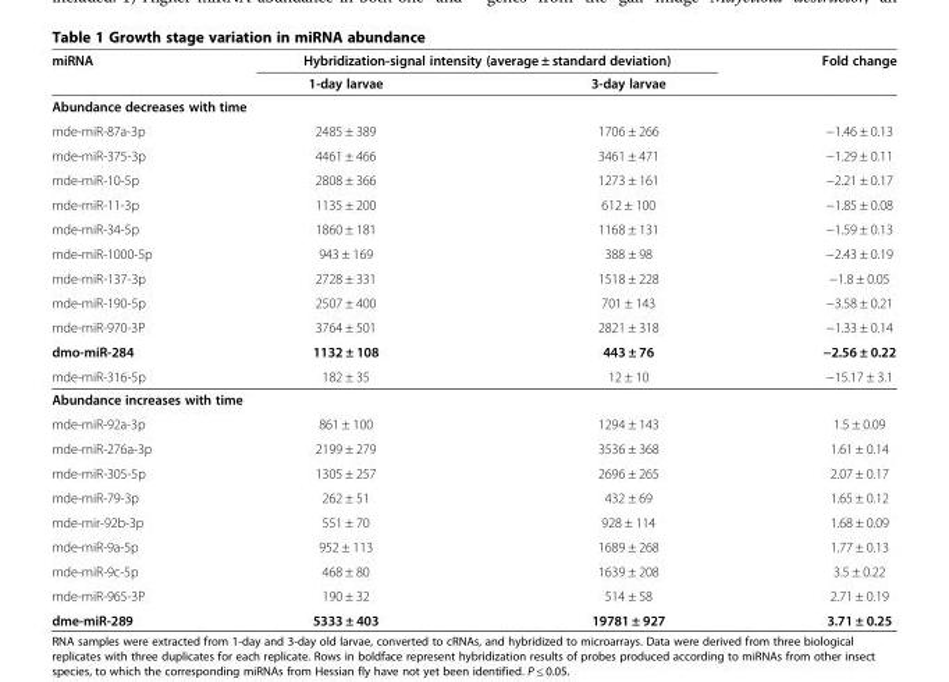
<table><thead><tr><td rowspan="2">miRNA</td><td colspan="2">Hybridization-signal intensity (average ± standard deviation)</td><td rowspan="2">Fold change</td></tr><tr><td>1-day larvae</td><td>3-day larvae</td></tr></thead><tbody><tr><td colspan="4">Abundance decreases with time</td></tr><tr><td>mde-miR-87a-3p</td><td>2485 ± 389</td><td>1706 ± 266</td><td>−1.46 ± 0.13</td></tr><tr><td>mde-miR-375-3p</td><td>4461 ± 466</td><td>3461 ± 471</td><td>−1.29 ± 0.11</td></tr><tr><td>mde-miR-10-5p</td><td>2808 ± 366</td><td>1273 ± 161</td><td>−2.21 ± 0.17</td></tr><tr><td>mde-miR-11-3p</td><td>1135 ± 200</td><td>612 ± 100</td><td>−1.85 ± 0.08</td></tr><tr><td>mde-miR-34-5p</td><td>1860 ± 181</td><td>1168 ± 131</td><td>−1.59 ± 0.13</td></tr><tr><td>mde-miR-1000-5p</td><td>943 ± 169</td><td>388 ± 98</td><td>−2.43 ± 0.19</td></tr><tr><td>mde-miR-137-3p</td><td>2728 ± 331</td><td>1518 ± 228</td><td>−1.8 ± 0.05</td></tr><tr><td>mde-miR-190-5p</td><td>2507 ± 400</td><td>701 ± 143</td><td>−3.58 ± 0.21</td></tr><tr><td>mde-miR-970-3P</td><td>3764 ± 501</td><td>2821 ± 318</td><td>−1.33 ± 0.14</td></tr><tr><td>dmo-miR-284</td><td>1132 ± 108</td><td>443 ± 76</td><td>−2.56 ± 0.22</td></tr><tr><td>mde-miR-316-5p</td><td>182 ± 35</td><td>12 ± 10</td><td>−15.17 ± 3.1</td></tr><tr><td colspan="4">Abundance increases with time</td></tr><tr><td>mde-miR-92a-3p</td><td>861 ± 100</td><td>1294 ± 143</td><td>1.5 ± 0.09</td></tr><tr><td>mde-miR-276a-3p</td><td>2199 ± 279</td><td>3536 ± 368</td><td>1.61 ± 0.14</td></tr><tr><td>mde-miR-305-5p</td><td>1305 ± 257</td><td>2696 ± 265</td><td>2.07 ± 0.17</td></tr><tr><td>mde-miR-79-3p</td><td>262 ± 51</td><td>432 ± 69</td><td>1.65 ± 0.12</td></tr><tr><td>mde-mir-92b-3p</td><td>551 ± 70</td><td>928 ± 114</td><td>1.68 ± 0.09</td></tr><tr><td>mde-miR-9a-5p</td><td>952 ± 113</td><td>1689 ± 268</td><td>1.77 ± 0.13</td></tr><tr><td>mde-miR-9c-5p</td><td>468 ± 80</td><td>1639 ± 208</td><td>3.5 ± 0.22</td></tr><tr><td>mde-miR-965-3P</td><td>190 ± 32</td><td>514 ± 58</td><td>2.71 ± 0.19</td></tr><tr><td>dme-miR-289</td><td>5333 ± 403</td><td>19781 ± 927</td><td>3.71 ± 0.25</td></tr></tbody></table>